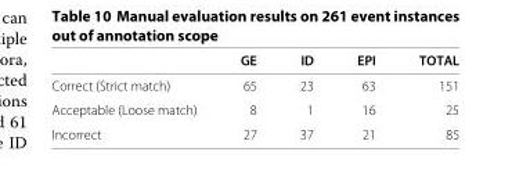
<table><thead><tr><td></td><td>GE</td><td>ID</td><td>EPI</td><td>TOTAL</td></tr></thead><tbody><tr><td>Correct (Strict match)</td><td>65</td><td>23</td><td>63</td><td>151</td></tr><tr><td>Acceptable (Loose match)</td><td>8</td><td>1</td><td>16</td><td>25</td></tr><tr><td>Incorrect</td><td>27</td><td>37</td><td>21</td><td>85</td></tr></tbody></table>